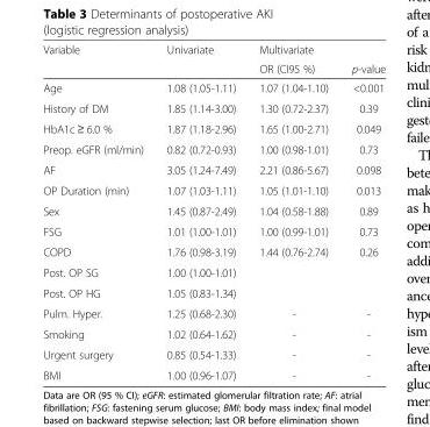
<table><thead><tr><td rowspan="2">Variable</td><td rowspan="2">Univariate</td><td colspan="2">Multivariate</td></tr><tr><td>OR (CI95 %)</td><td>p-value</td></tr></thead><tbody><tr><td>Age</td><td>1.08 (1.05-1.11)</td><td>1.07 (1.04-1.10)</td><td>&lt;0.001</td></tr><tr><td>History of DM</td><td>1.85 (1.14-3.00)</td><td>1.30 (0.72-2.37)</td><td>0.39</td></tr><tr><td>HbA1c ≥ 6.0 %</td><td>1.87 (1.18-2.96)</td><td>1.65 (1.00-2.71)</td><td>0.049</td></tr><tr><td>Preop. eGFR (ml/min)</td><td>0.82 (0.72-0.93)</td><td>1.00 (0.98-1.01)</td><td>0.73</td></tr><tr><td>AF</td><td>3.05 (1.24-7.49)</td><td>2.21 (0.86-5.67)</td><td>0.098</td></tr><tr><td>OP Duration (min)</td><td>1.07 (1.03-1.11)</td><td>1.05 (1.01-1.10)</td><td>0.013</td></tr><tr><td>Sex</td><td>1.45 (0.87-2.49)</td><td>1.04 (0.58-1.88)</td><td>0.89</td></tr><tr><td>FSG</td><td>1.01 (1.00-1.01)</td><td>1.00 (0.99-1.01)</td><td>0.73</td></tr><tr><td>COPD</td><td>1.76 (0.98-3.19)</td><td>1.44 (0.76-2.74)</td><td>0.26</td></tr><tr><td>Post. OP SG</td><td>1.00 (1.00-1.01)</td><td></td><td></td></tr><tr><td>Post. OP HG</td><td>1.05 (0.83-1.34)</td><td></td><td></td></tr><tr><td>Pulm. Hyper.</td><td>1.25 (0.68-2.30)</td><td>-</td><td>-</td></tr><tr><td>Smoking</td><td>1.02 (0.64-1.62)</td><td>-</td><td>-</td></tr><tr><td>Urgent surgery</td><td>0.85 (0.54-1.33)</td><td>-</td><td>-</td></tr><tr><td>BMI</td><td>1.00 (0.96-1.07)</td><td>-</td><td>-</td></tr></tbody></table>